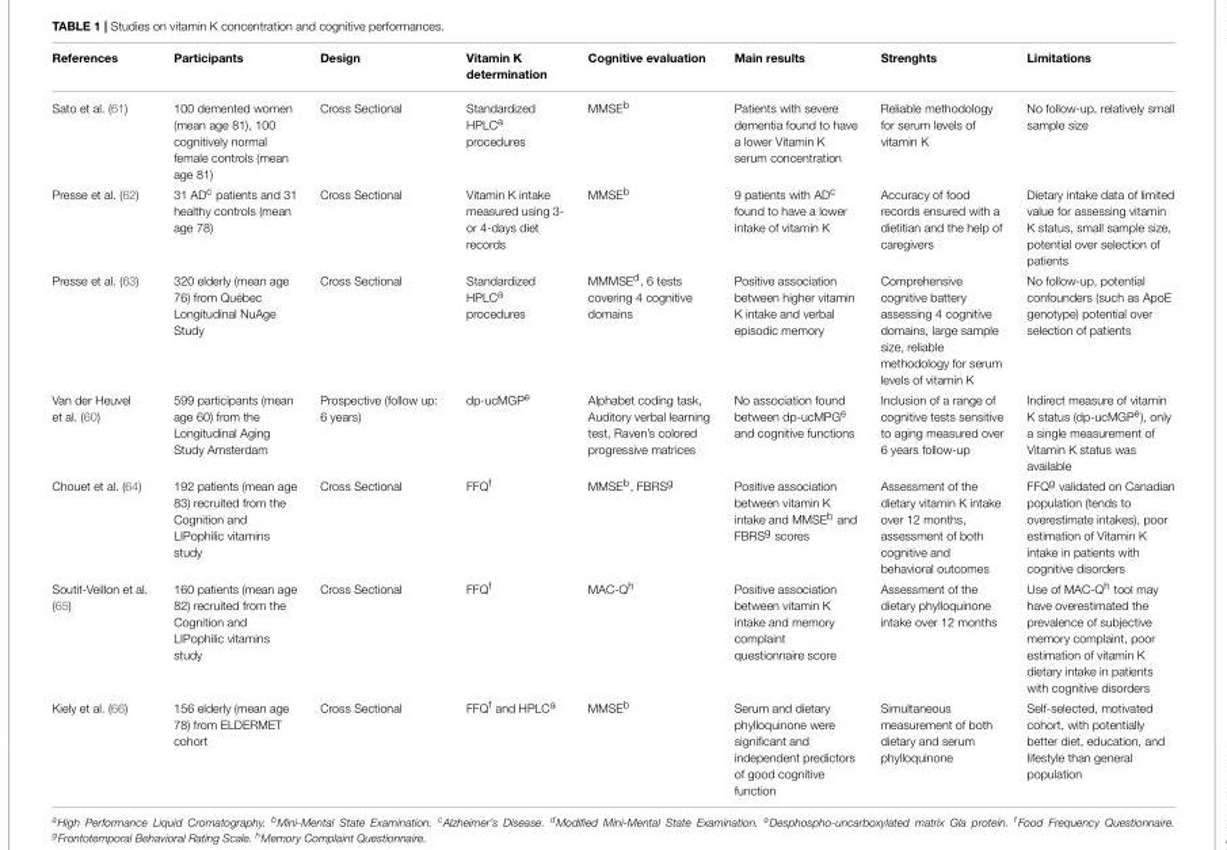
<table><thead><tr><td>References</td><td>Participants</td><td>Design</td><td>Vitamin K determination</td><td>Cognitive evaluation</td><td>Main results</td><td>Strenghts</td><td>Limitations</td></tr></thead><tbody><tr><td>Sato et al. (61)</td><td>100 demented women (mean age 81), 100 cognitively normal female controls (mean age 81)</td><td>Cross Sectional</td><td>Standardized HPLC<sup>a</sup> procedures</td><td>MMSE<sup>b</sup></td><td>Patients with severe dementia found to have a lower Vitamin K serum concentration</td><td>Reliable methodology for serum levels of vitamin K</td><td>No follow-up, relatively small sample size</td></tr><tr><td>Presse et al. (62)</td><td>31 AD<sup>c</sup> patients and 31 healthy controls (mean age 78)</td><td>Cross Sectional</td><td>Vitamin K intake measured using 3- or 4-days diet records</td><td>MMSE<sup>b</sup></td><td>9 patients with AD<sup>c</sup> found to have a lower intake of vitamin K</td><td>Accuracy of food records ensured with a dietitian and the help of caregivers</td><td>Dietary intake data of limited value for assessing vitamin K status, small sample size, potential over selection of patients</td></tr><tr><td>Presse et al. (63)</td><td>320 elderly (mean age 76) from Québec Longitudinal NuAge Study</td><td>Cross Sectional</td><td>Standardized HPLC<sup>a</sup> procedures</td><td>MMMSE<sup>d</sup>, 6 tests covering 4 cognitive domains</td><td>Positive association between higher vitamin K intake and verbal episodic memory</td><td>Comprehensive cognitive battery assessing 4 cognitive domains, large sample size, reliable methodology for serum levels of vitamin K</td><td>No follow-up, potential confounders (such as ApoE genotype) potential over selection of patients</td></tr><tr><td>Van der Heuvel et al. (60)</td><td>599 participants (mean age 60) from the Longitudinal Aging Study Amsterdam</td><td>Prospective (follow up: 6 years)</td><td>dp-ucMGP<sup>e</sup></td><td>Alphabet coding task, Auditory verbal learning test, Raven’s colored progressive matrices</td><td>No association found between dp-ucMPG<sup>e</sup> and cognitive functions</td><td>Inclusion of a range of cognitive tests sensitive to aging measured over 6 years follow-up</td><td>Indirect measure of vitamin K status (dp-ucMGP<sup>e</sup>), only a single measurement of Vitamin K status was available</td></tr><tr><td>Chouet et al. (64)</td><td>192 patients (mean age 83) recruited from the Cognition and LIPophilic vitamins study</td><td>Cross Sectional</td><td>FFQ<sup>f</sup></td><td>MMSE<sup>b</sup>, FBRS<sup>g</sup></td><td>Positive association between vitamin K intake and MMSE<sup>b</sup> and FBRS<sup>g</sup> scores</td><td>Assessment of the dietary vitamin K intake over 12 months, assessment of both cognitive and behavioral outcomes</td><td>FFQ<sup>g</sup> validated on Canadian population (tends to overestimate intakes), poor estimation of Vitamin K intake in patients with cognitive disorders</td></tr><tr><td>Soutif-Veillon et al. (65)</td><td>160 patients (mean age 82) recruited from the Cognition and LIPophilic vitamins study</td><td>Cross Sectional</td><td>FFQ<sup>f</sup></td><td>MAC-Q<sup>h</sup></td><td>Positive association between vitamin K intake and memory complaint questionnaire score</td><td>Assessment of the dietary phylloquinone intake over 12 months</td><td>Use of MAC-Q<sup>h</sup> tool may have overestimated the prevalence of subjective memory complaint, poor estimation of vitamin K dietary intake in patients with cognitive disorders</td></tr><tr><td>Kiely et al. (66)</td><td>156 elderly (mean age 78) from ELDERMET cohort</td><td>Cross Sectional</td><td>FFQ<sup>f</sup> and HPLC<sup>a</sup></td><td>MMSE<sup>b</sup></td><td>Serum and dietary phylloquinone were significant and independent predictors of good cognitive function</td><td>Simultaneous measurement of both dietary and serum phylloquinone</td><td>Self-selected, motivated cohort, with potentially better diet, education, and lifestyle than general population</td></tr></tbody></table>